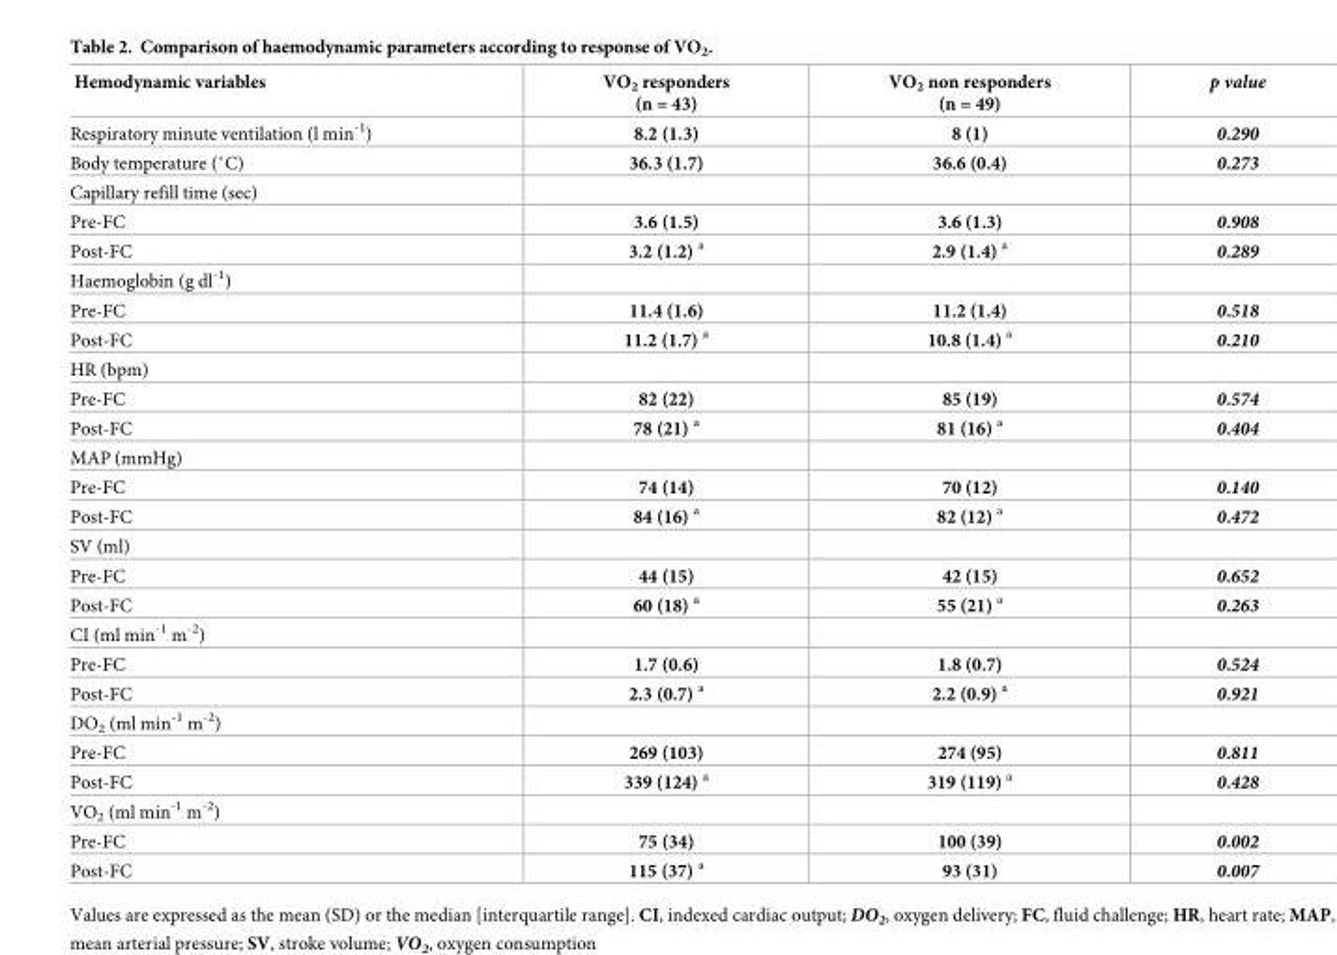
<table><thead><tr><td>Hemodynamic variables</td><td>VO<sub>2</sub> responders (n = 43)</td><td>VO<sub>2</sub> non responders (n = 49)</td><td>p value</td></tr></thead><tbody><tr><td>Respiratory minute ventilation (l min<sup>-1</sup>)</td><td>8.2 (1.3)</td><td>8 (1)</td><td>0.290</td></tr><tr><td>Body temperature (˚C)</td><td>36.3 (1.7)</td><td>36.6 (0.4)</td><td>0.273</td></tr><tr><td colspan="4">Capillary refill time (sec)</td></tr><tr><td>Pre-FC</td><td>3.6 (1.5)</td><td>3.6 (1.3)</td><td>0.908</td></tr><tr><td>Post-FC</td><td>3.2 (1.2) <sup>a</sup></td><td>2.9 (1.4) <sup>a</sup></td><td>0.289</td></tr><tr><td colspan="4">Haemoglobin (g dl<sup>-1</sup>)</td></tr><tr><td>Pre-FC</td><td>11.4 (1.6)</td><td>11.2 (1.4)</td><td>0.518</td></tr><tr><td>Post-FC</td><td>11.2 (1.7) <sup>a</sup></td><td>10.8 (1.4) <sup>a</sup></td><td>0.210</td></tr><tr><td colspan="4">HR (bpm)</td></tr><tr><td>Pre-FC</td><td>82 (22)</td><td>85 (19)</td><td>0.574</td></tr><tr><td>Post-FC</td><td>78 (21) <sup>a</sup></td><td>81 (16) <sup>a</sup></td><td>0.404</td></tr><tr><td colspan="4">MAP (mmHg)</td></tr><tr><td>Pre-FC</td><td>74 (14)</td><td>70 (12)</td><td>0.140</td></tr><tr><td>Post-FC</td><td>84 (16) <sup>a</sup></td><td>82 (12) <sup>a</sup></td><td>0.472</td></tr><tr><td colspan="4">SV (ml)</td></tr><tr><td>Pre-FC</td><td>44 (15)</td><td>42 (15)</td><td>0.652</td></tr><tr><td>Post-FC</td><td>60 (18) <sup>a</sup></td><td>55 (21) <sup>a</sup></td><td>0.263</td></tr><tr><td colspan="4">CI (ml min<sup>-1</sup> m<sup>-2</sup>)</td></tr><tr><td>Pre-FC</td><td>1.7 (0.6)</td><td>1.8 (0.7)</td><td>0.524</td></tr><tr><td>Post-FC</td><td>2.3 (0.7) <sup>a</sup></td><td>2.2 (0.9) <sup>a</sup></td><td>0.921</td></tr><tr><td colspan="4">DO<sub>2</sub> (ml min<sup>-1</sup> m<sup>-2</sup>)</td></tr><tr><td>Pre-FC</td><td>269 (103)</td><td>274 (95)</td><td>0.811</td></tr><tr><td>Post-FC</td><td>339 (124) <sup>a</sup></td><td>319 (119) <sup>a</sup></td><td>0.428</td></tr><tr><td colspan="4">VO<sub>2</sub> (ml min<sup>-1</sup> m<sup>-2</sup>)</td></tr><tr><td>Pre-FC</td><td>75 (34)</td><td>100 (39)</td><td>0.002</td></tr><tr><td>Post-FC</td><td>115 (37) <sup>a</sup></td><td>93 (31)</td><td>0.007</td></tr></tbody></table>